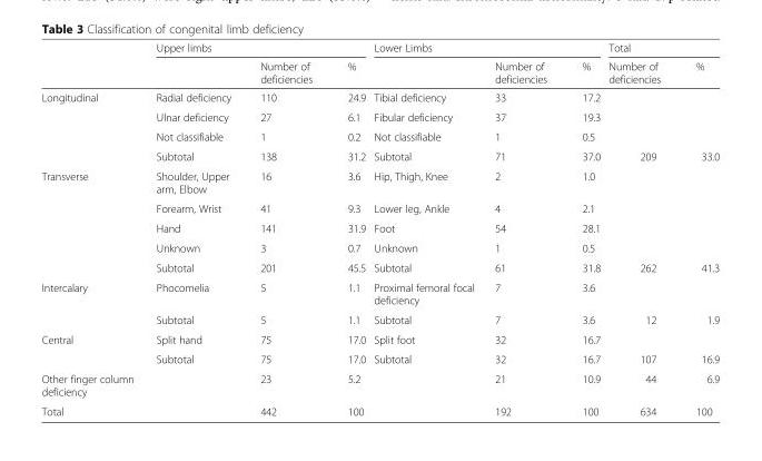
<table><thead><tr><td rowspan="2"></td><td colspan="3">Upper limbs</td><td colspan="3">Lower Limbs</td><td colspan="2">Total</td></tr><tr><td></td><td>Number of deficiencies</td><td>%</td><td></td><td>Number of deficiencies</td><td>%</td><td>Number of deficiencies</td><td>%</td></tr></thead><tbody><tr><td rowspan="4">Longitudinal</td><td>Radial deficiency</td><td>110</td><td>24.9</td><td>Tibial deficiency</td><td>33</td><td>17.2</td><td></td><td></td></tr><tr><td>Ulnar deficiency</td><td>27</td><td>6.1</td><td>Fibular deficiency</td><td>37</td><td>19.3</td><td></td><td></td></tr><tr><td>Not classifiable</td><td>1</td><td>0.2</td><td>Not classifiable</td><td>1</td><td>0.5</td><td></td><td></td></tr><tr><td>Subtotal</td><td>138</td><td>31.2</td><td>Subtotal</td><td>71</td><td>37.0</td><td>209</td><td>33.0</td></tr><tr><td rowspan="5">Transverse</td><td>Shoulder, Upper arm, Elbow</td><td>16</td><td>3.6</td><td>Hip, Thigh, Knee</td><td>2</td><td>1.0</td><td></td><td></td></tr><tr><td>Forearm, Wrist</td><td>41</td><td>9.3</td><td>Lower leg, Ankle</td><td>4</td><td>2.1</td><td></td><td></td></tr><tr><td>Hand</td><td>141</td><td>31.9</td><td>Foot</td><td>54</td><td>28.1</td><td></td><td></td></tr><tr><td>Unknown</td><td>3</td><td>0.7</td><td>Unknown</td><td>1</td><td>0.5</td><td></td><td></td></tr><tr><td>Subtotal</td><td>201</td><td>45.5</td><td>Subtotal</td><td>61</td><td>31.8</td><td>262</td><td>41.3</td></tr><tr><td rowspan="2">Intercalary</td><td>Phocomelia</td><td>5</td><td>1.1</td><td>Proximal femoral focal deficiency</td><td>7</td><td>3.6</td><td></td><td></td></tr><tr><td>Subtotal</td><td>5</td><td>1.1</td><td>Subtotal</td><td>7</td><td>3.6</td><td>12</td><td>1.9</td></tr><tr><td rowspan="2">Central</td><td>Split hand</td><td>75</td><td>17.0</td><td>Split foot</td><td>32</td><td>16.7</td><td></td><td></td></tr><tr><td>Subtotal</td><td>75</td><td>17.0</td><td>Subtotal</td><td>32</td><td>16.7</td><td>107</td><td>16.9</td></tr><tr><td>Other finger column deficiency</td><td></td><td>23</td><td>5.2</td><td></td><td>21</td><td>10.9</td><td>44</td><td>6.9</td></tr><tr><td>Total</td><td></td><td>442</td><td>100</td><td></td><td>192</td><td>100</td><td>634</td><td>100</td></tr></tbody></table>